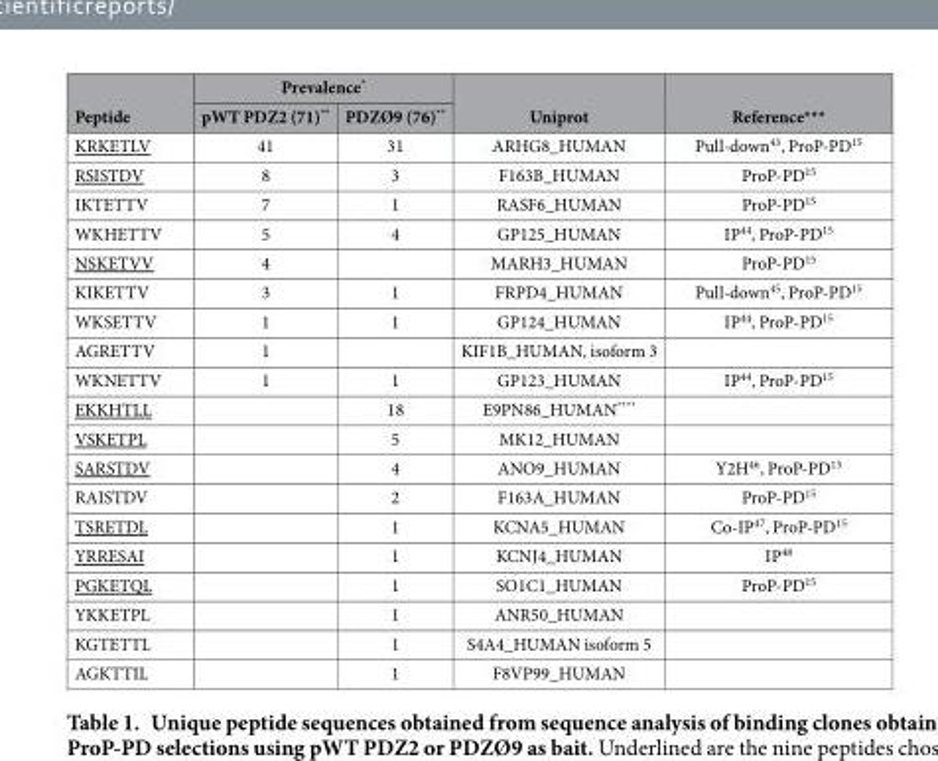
<table><thead><tr><td rowspan="2">Peptide</td><td colspan="2">Prevalence*</td><td rowspan="2">Uniprot</td><td rowspan="2">Reference***</td></tr><tr><td>pWT PDZ2 (71)**</td><td>PDZØ9 (76)**</td></tr></thead><tbody><tr><td>KRKETLV</td><td>41</td><td>31</td><td>ARHG8_HUMAN</td><td>Pull-down<sup>43</sup>, ProP-PD<sup>15</sup></td></tr><tr><td>RSISTDV</td><td>8</td><td>3</td><td>F163B_HUMAN</td><td>ProP-PD<sup>15</sup></td></tr><tr><td>IKTETTV</td><td>7</td><td>1</td><td>RASF6_HUMAN</td><td>ProP-PD<sup>15</sup></td></tr><tr><td>WKHETTV</td><td>5</td><td>4</td><td>GP125_HUMAN</td><td>IP<sup>44</sup>, ProP-PD<sup>15</sup></td></tr><tr><td>NSKETVV</td><td>4</td><td></td><td>MARH3_HUMAN</td><td>ProP-PD<sup>15</sup></td></tr><tr><td>KIKETTV</td><td>3</td><td>1</td><td>FRPD4_HUMAN</td><td>Pull-down<sup>45</sup>, ProP-PD<sup>15</sup></td></tr><tr><td>WKSETTV</td><td>1</td><td>1</td><td>GP124_HUMAN</td><td>IP<sup>44</sup>, ProP-PD<sup>15</sup></td></tr><tr><td>AGRETTV</td><td>1</td><td></td><td>KIF1B_HUMAN, isoform 3</td><td></td></tr><tr><td>WKNETTV</td><td>1</td><td>1</td><td>GP123_HUMAN</td><td>IP<sup>44</sup>, ProP-PD<sup>15</sup></td></tr><tr><td>EKKHTLL</td><td></td><td>18</td><td>E9PN86_HUMAN****</td><td></td></tr><tr><td>VSKETPL</td><td></td><td>5</td><td>MK12_HUMAN</td><td></td></tr><tr><td>SARSTDV</td><td></td><td>4</td><td>ANO9_HUMAN</td><td>Y2H<sup>46</sup>, ProP-PD<sup>15</sup></td></tr><tr><td>RAISTDV</td><td></td><td>2</td><td>F163A_HUMAN</td><td>ProP-PD<sup>15</sup></td></tr><tr><td>TSRETDL</td><td></td><td>1</td><td>KCNA5_HUMAN</td><td>Co-IP<sup>47</sup>, ProP-PD<sup>15</sup></td></tr><tr><td>YRRESAI</td><td></td><td>1</td><td>KCNJ4_HUMAN</td><td>IP<sup>48</sup></td></tr><tr><td>PGKETQL</td><td></td><td>1</td><td>SO1C1_HUMAN</td><td>ProP-PD<sup>15</sup></td></tr><tr><td>YKKETPL</td><td></td><td>1</td><td>ANR50_HUMAN</td><td></td></tr><tr><td>KGTETTL</td><td></td><td>1</td><td>S4A4_HUMAN isoform 5</td><td></td></tr><tr><td>AGKTTIL</td><td></td><td>1</td><td>F8VP99_HUMAN</td><td></td></tr></tbody></table>